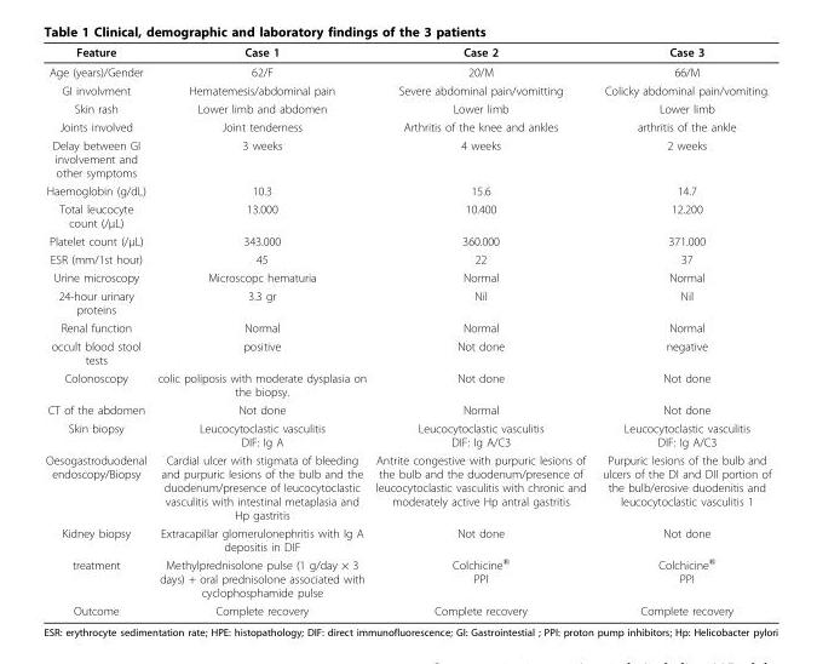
<table><thead><tr><td>Feature</td><td>Case 1</td><td>Case 2</td><td>Case 3</td></tr></thead><tbody><tr><td>Age (years)/Gender</td><td>62/F</td><td>20/M</td><td>66/M</td></tr><tr><td>GI involvment</td><td>Hematemesis/abdominal pain</td><td>Severe abdominal pain/vomitting</td><td>Colicky abdominal pain/vomiting.</td></tr><tr><td>Skin rash</td><td>Lower limb and abdomen</td><td>Lower limb</td><td>Lower limb</td></tr><tr><td>Joints involved</td><td>Joint tenderness</td><td>Arthritis of the knee and ankles</td><td>arthritis of the ankle</td></tr><tr><td>Delay between GI involvement and other symptoms</td><td>3 weeks</td><td>4 weeks</td><td>2 weeks</td></tr><tr><td>Haemoglobin (g/dL)</td><td>10.3</td><td>15.6</td><td>14.7</td></tr><tr><td>Total leucocyte count (/μL)</td><td>13.000</td><td>10.400</td><td>12.200</td></tr><tr><td>Platelet count (/μL)</td><td>343.000</td><td>360.000</td><td>371.000</td></tr><tr><td>ESR (mm/1st hour)</td><td>45</td><td>22</td><td>37</td></tr><tr><td>Urine microscopy</td><td>Microscopc hematuria</td><td>Normal</td><td>Normal</td></tr><tr><td>24-hour urinary proteins</td><td>3.3 gr</td><td>Nil</td><td>Nil</td></tr><tr><td>Renal function</td><td>Normal</td><td>Normal</td><td>Normal</td></tr><tr><td>occult blood stool tests</td><td>positive</td><td>Not done</td><td>negative</td></tr><tr><td>Colonoscopy</td><td>colic poliposis with moderate dysplasia on the biopsy.</td><td>Not done</td><td>Not done</td></tr><tr><td>CT of the abdomen</td><td>Not done</td><td>Normal</td><td>Not done</td></tr><tr><td>Skin biopsy</td><td>Leucocytoclastic vasculitis DIF: Ig A</td><td>Leucocytoclastic vasculitis DIF: Ig A/C3</td><td>Leucocytoclastic vasculitis DIF: Ig A/C3</td></tr><tr><td>Oesogastroduodenal endoscopy/Biopsy</td><td>Cardial ulcer with stigmata of bleeding and purpuric lesions of the bulb and the duodenum/presence of leucocytoclastic vasculitis with intestinal metaplasia and Hp gastritis</td><td>Antrite congestive with purpuric lesions of the bulb and the duodenum/presence of leucocytoclastic vasculitis with chronic and moderately active Hp antral gastritis</td><td>Purpuric lesions of the bulb and ulcers of the DI and DII portion of the bulb/erosive duodenitis and leucocytoclastic vasculitis 1</td></tr><tr><td>Kidney biopsy</td><td>Extracapillar glomerulonephritis with Ig A depositis in DIF</td><td>Not done</td><td>Not done</td></tr><tr><td>treatment</td><td>Methylprednisolone pulse (1 g/day × 3 days) + oral prednisolone associated with cyclophosphamide pulse</td><td>Colchicine<sup>®</sup> PPI</td><td>Colchicine<sup>®</sup> PPI</td></tr><tr><td>Outcome</td><td>Complete recovery</td><td>Complete recovery</td><td>Complete recovery</td></tr></tbody></table>